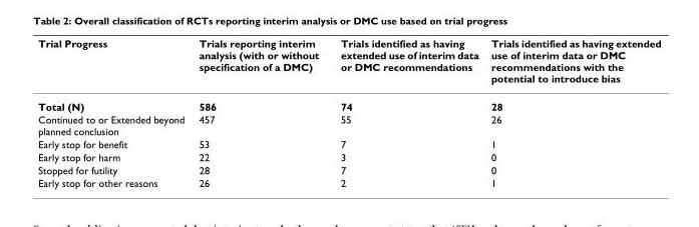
<table><thead><tr><td>Trial Progress</td><td>Trials reporting interim analysis (with or without specification of a DMC)</td><td>Trials identified as having extended use of interim data or DMC recommendations</td><td>Trials identified as having extended use of interim data or DMC recommendations with the potential to introduce bias</td></tr></thead><tbody><tr><td>Total (N)</td><td>586</td><td>74</td><td>28</td></tr><tr><td>Continued to or Extended beyond planned conclusion</td><td>457</td><td>55</td><td>26</td></tr><tr><td>Early stop for benefit</td><td>53</td><td>7</td><td>1</td></tr><tr><td>Early stop for harm</td><td>22</td><td>3</td><td>0</td></tr><tr><td>Stopped for futility</td><td>28</td><td>7</td><td>0</td></tr><tr><td>Early stop for other reasons</td><td>26</td><td>2</td><td>1</td></tr></tbody></table>